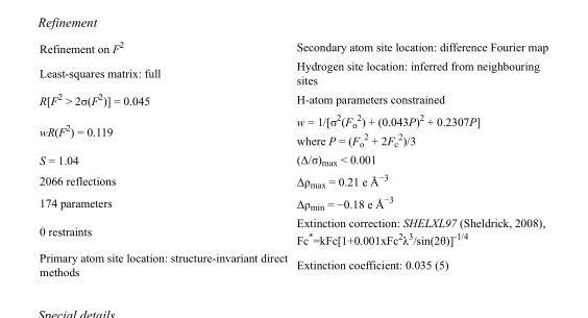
<table><tbody><tr><td>Refinement on F<sup>2</sup></td><td>Secondary atom site location: difference Fourier map</td></tr><tr><td>Least-squares matrix: full</td><td>Hydrogen site location: inferred from neighbouring sites</td></tr><tr><td>R[F<sup>2</sup> &gt; 2σ(F<sup>2</sup>)] = 0.045</td><td>H-atom parameters constrained</td></tr><tr><td>wR(F<sup>2</sup>) = 0.119</td><td>w = 1/[σ<sup>2</sup>(F<sub>o</sub> <sup>2</sup>) + (0.043P)<sup>2</sup> + 0.2307P] where P = (F<sub>o</sub> <sup>2</sup> + 2F<sub>c</sub> <sup>2</sup>)/3</td></tr><tr><td>S = 1.04</td><td>(Δ/σ)<sub>max</sub> &lt; 0.001</td></tr><tr><td>2066 reflections</td><td>Δρ<sub>max</sub> = 0.21 e Å<sup>−3</sup></td></tr><tr><td>174 parameters</td><td>Δρ<sub>min</sub> = −0.18 e Å<sup>−3</sup></td></tr><tr><td>0 restraints</td><td>Extinction correction: SHELXL97 (Sheldrick, 2008), Fc*=kFc[1+0.001xFc<sup>2</sup>λ<sup>3</sup>/sin(2θ)]<sup>-1/4</sup></td></tr><tr><td>Primary atom site location: structure-invariant direct methods</td><td>Extinction coefficient: 0.035 (5)</td></tr></tbody></table>